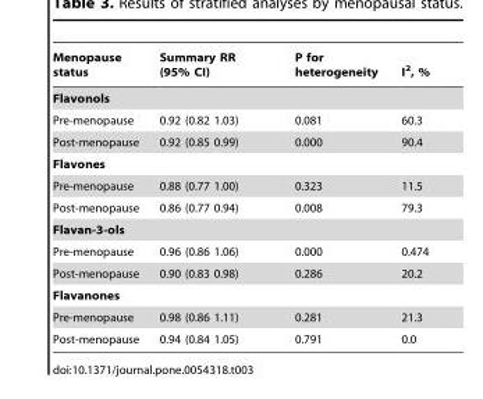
<table><thead><tr><td>Menopause status</td><td>Summary RR (95% CI)</td><td>P for heterogeneity</td><td>I<sup>2</sup>, %</td></tr></thead><tbody><tr><td colspan="4">Flavonols</td></tr><tr><td>Pre-menopause</td><td>0.92 (0.82 1.03)</td><td>0.081</td><td>60.3</td></tr><tr><td>Post-menopause</td><td>0.92 (0.85 0.99)</td><td>0.000</td><td>90.4</td></tr><tr><td colspan="4">Flavones</td></tr><tr><td>Pre-menopause</td><td>0.88 (0.77 1.00)</td><td>0.323</td><td>11.5</td></tr><tr><td>Post-menopause</td><td>0.86 (0.77 0.94)</td><td>0.008</td><td>79.3</td></tr><tr><td colspan="4">Flavan-3-ols</td></tr><tr><td>Pre-menopause</td><td>0.96 (0.86 1.06)</td><td>0.000</td><td>0.474</td></tr><tr><td>Post-menopause</td><td>0.90 (0.83 0.98)</td><td>0.286</td><td>20.2</td></tr><tr><td colspan="4">Flavanones</td></tr><tr><td>Pre-menopause</td><td>0.98 (0.86 1.11)</td><td>0.281</td><td>21.3</td></tr><tr><td>Post-menopause</td><td>0.94 (0.84 1.05)</td><td>0.791</td><td>0.0</td></tr></tbody></table>